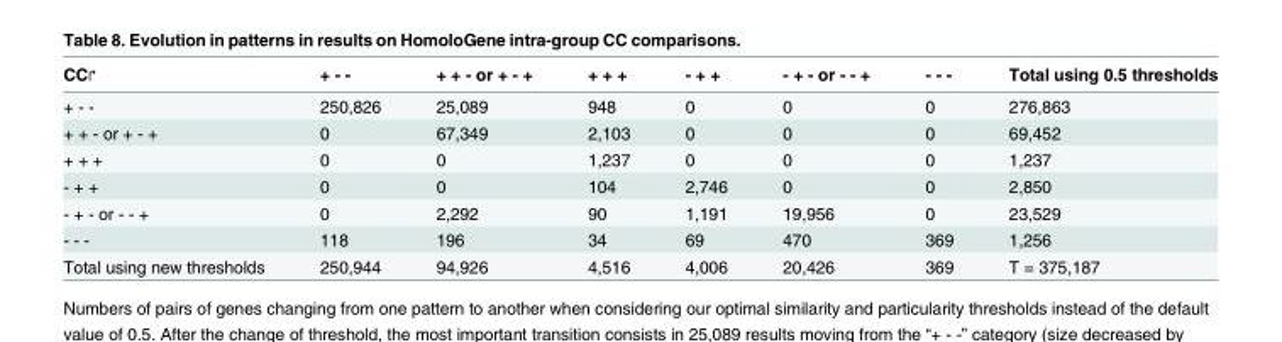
<table><thead><tr><td>CC↱</td><td>+ - -</td><td>+ + - or + - +</td><td>+ + +</td><td>- + +</td><td>- + - or - - +</td><td>- - -</td><td>Total using 0.5 thresholds</td></tr></thead><tbody><tr><td>+ - -</td><td>250,826</td><td>25,089</td><td>948</td><td>0</td><td>0</td><td>0</td><td>276,863</td></tr><tr><td>+ + - or + - +</td><td>0</td><td>67,349</td><td>2,103</td><td>0</td><td>0</td><td>0</td><td>69,452</td></tr><tr><td>+ + +</td><td>0</td><td>0</td><td>1,237</td><td>0</td><td>0</td><td>0</td><td>1,237</td></tr><tr><td>- + +</td><td>0</td><td>0</td><td>104</td><td>2,746</td><td>0</td><td>0</td><td>2,850</td></tr><tr><td>- + - or - - +</td><td>0</td><td>2,292</td><td>90</td><td>1,191</td><td>19,956</td><td>0</td><td>23,529</td></tr><tr><td>- - -</td><td>118</td><td>196</td><td>34</td><td>69</td><td>470</td><td>369</td><td>1,256</td></tr><tr><td>Total using new thresholds</td><td>250,944</td><td>94,926</td><td>4,516</td><td>4,006</td><td>20,426</td><td>369</td><td>T = 375,187</td></tr></tbody></table>